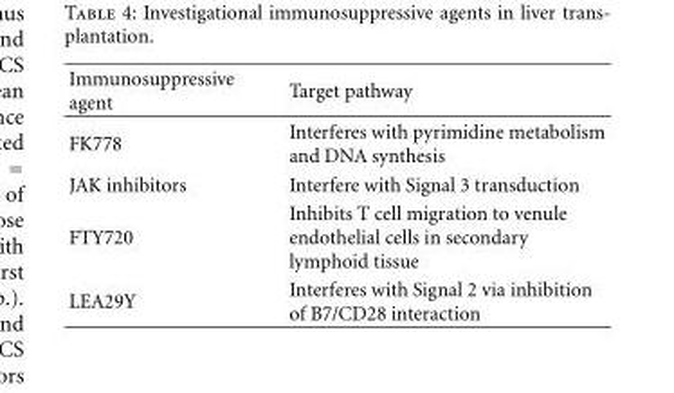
<table><thead><tr><td>Immunosuppressive agent</td><td>Target pathway</td></tr></thead><tbody><tr><td>FK778</td><td>Interferes with pyrimidine metabolism and DNA synthesis</td></tr><tr><td>JAK inhibitors</td><td>Interfere with Signal 3 transduction</td></tr><tr><td>FTY720</td><td>Inhibits T cell migration to venule endothelial cells in secondary lymphoid tissue</td></tr><tr><td>LEA29Y</td><td>Interferes with Signal 2 via inhibition of B7/CD28 interaction</td></tr></tbody></table>